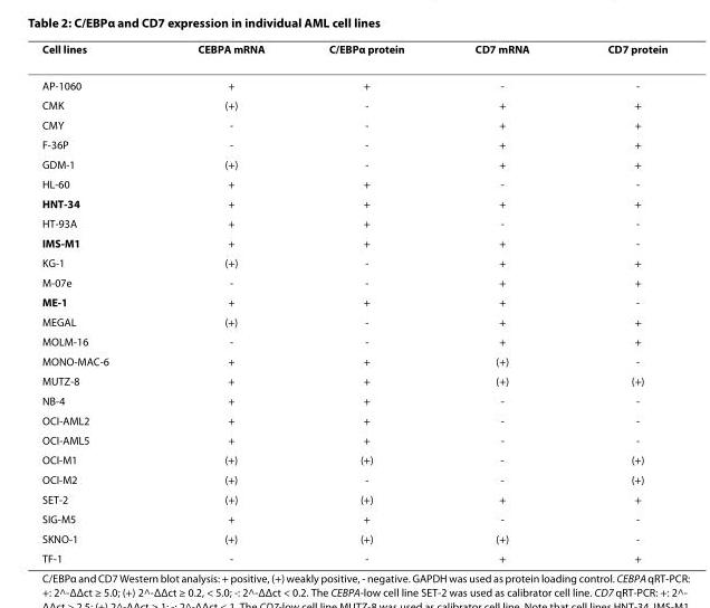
<table><thead><tr><td>Cell lines</td><td>CEBPA mRNA</td><td>C/EBPα protein</td><td>CD7 mRNA</td><td>CD7 protein</td></tr></thead><tbody><tr><td>AP-1060</td><td>+</td><td>+</td><td>-</td><td>-</td></tr><tr><td>CMK</td><td>(+)</td><td>-</td><td>+</td><td>+</td></tr><tr><td>CMY</td><td>-</td><td>-</td><td>+</td><td>+</td></tr><tr><td>F-36P</td><td>-</td><td>-</td><td>+</td><td>+</td></tr><tr><td>GDM-1</td><td>(+)</td><td>-</td><td>+</td><td>+</td></tr><tr><td>HL-60</td><td>+</td><td>+</td><td>-</td><td>-</td></tr><tr><td>HNT-34</td><td>+</td><td>+</td><td>+</td><td>+</td></tr><tr><td>HT-93A</td><td>+</td><td>+</td><td>-</td><td>-</td></tr><tr><td>IMS-M1</td><td>+</td><td>+</td><td>+</td><td>-</td></tr><tr><td>KG-1</td><td>(+)</td><td>-</td><td>+</td><td>+</td></tr><tr><td>M-07e</td><td>-</td><td>-</td><td>+</td><td>+</td></tr><tr><td>ME-1</td><td>+</td><td>+</td><td>+</td><td>-</td></tr><tr><td>MEGAL</td><td>(+)</td><td>-</td><td>+</td><td>+</td></tr><tr><td>MOLM-16</td><td>-</td><td>-</td><td>+</td><td>+</td></tr><tr><td>MONO-MAC-6</td><td>+</td><td>+</td><td>(+)</td><td>-</td></tr><tr><td>MUTZ-8</td><td>+</td><td>+</td><td>(+)</td><td>(+)</td></tr><tr><td>NB-4</td><td>+</td><td>+</td><td>-</td><td>-</td></tr><tr><td>OCI-AML2</td><td>+</td><td>+</td><td>-</td><td>-</td></tr><tr><td>OCI-AML5</td><td>+</td><td>+</td><td>-</td><td>-</td></tr><tr><td>OCI-M1</td><td>(+)</td><td>(+)</td><td>-</td><td>(+)</td></tr><tr><td>OCI-M2</td><td>(+)</td><td>-</td><td>-</td><td>(+)</td></tr><tr><td>SET-2</td><td>(+)</td><td>(+)</td><td>+</td><td>+</td></tr><tr><td>SIG-M5</td><td>+</td><td>+</td><td>-</td><td>-</td></tr><tr><td>SKNO-1</td><td>(+)</td><td>(+)</td><td>(+)</td><td>-</td></tr><tr><td>TF-1</td><td>-</td><td>-</td><td>+</td><td>+</td></tr></tbody></table>